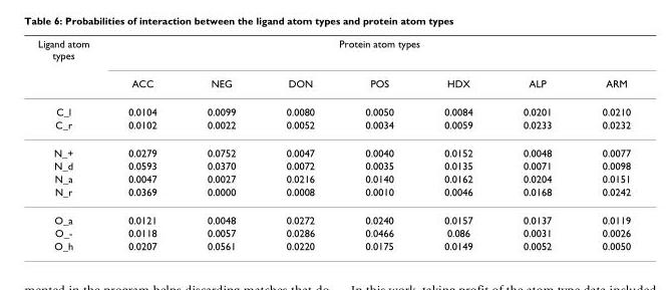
<table><thead><tr><td rowspan="2">Ligand atom types</td><td colspan="7">Protein atom types</td></tr><tr><td>ACC</td><td>NEG</td><td>DON</td><td>POS</td><td>HDX</td><td>ALP</td><td>ARM</td></tr></thead><tbody><tr><td>C_l</td><td>0.0104</td><td>0.0099</td><td>0.0080</td><td>0.0050</td><td>0.0084</td><td>0.0201</td><td>0.0210</td></tr><tr><td>C_r</td><td>0.0102</td><td>0.0022</td><td>0.0052</td><td>0.0034</td><td>0.0059</td><td>0.0233</td><td>0.0232</td></tr><tr><td>N_+</td><td>0.0279</td><td>0.0752</td><td>0.0047</td><td>0.0040</td><td>0.0152</td><td>0.0048</td><td>0.0077</td></tr><tr><td>N_d</td><td>0.0593</td><td>0.0370</td><td>0.0072</td><td>0.0035</td><td>0.0135</td><td>0.0071</td><td>0.0098</td></tr><tr><td>N_a</td><td>0.0047</td><td>0.0027</td><td>0.0216</td><td>0.0140</td><td>0.0162</td><td>0.0204</td><td>0.0151</td></tr><tr><td>N_r</td><td>0.0369</td><td>0.0000</td><td>0.0008</td><td>0.0010</td><td>0.0046</td><td>0.0168</td><td>0.0242</td></tr><tr><td>O_a</td><td>0.0121</td><td>0.0048</td><td>0.0272</td><td>0.0240</td><td>0.0157</td><td>0.0137</td><td>0.0119</td></tr><tr><td>O_-</td><td>0.0118</td><td>0.0057</td><td>0.0286</td><td>0.0466</td><td>0.086</td><td>0.0031</td><td>0.0026</td></tr><tr><td>O_h</td><td>0.0207</td><td>0.0561</td><td>0.0220</td><td>0.0175</td><td>0.0149</td><td>0.0052</td><td>0.0050</td></tr></tbody></table>